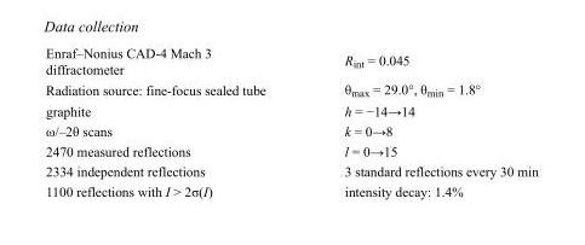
<table><tbody><tr><td>Enraf–Nonius CAD-4 Mach 3 diffractometer</td><td>R<sub>int</sub> = 0.045</td></tr><tr><td>Radiation source: fine-focus sealed tube</td><td>θ<sub>max</sub> = 29.0°, θ<sub>min</sub> = 1.8°</td></tr><tr><td>graphite</td><td>h = −14→14</td></tr><tr><td>ω/–2θ scans</td><td>k = 0→8</td></tr><tr><td>2470 measured reflections</td><td>l = 0→15</td></tr><tr><td>2334 independent reflections</td><td>3 standard reflections every 30 min</td></tr><tr><td>1100 reflections with I &gt; 2σ(I)</td><td>intensity decay: 1.4%</td></tr></tbody></table>